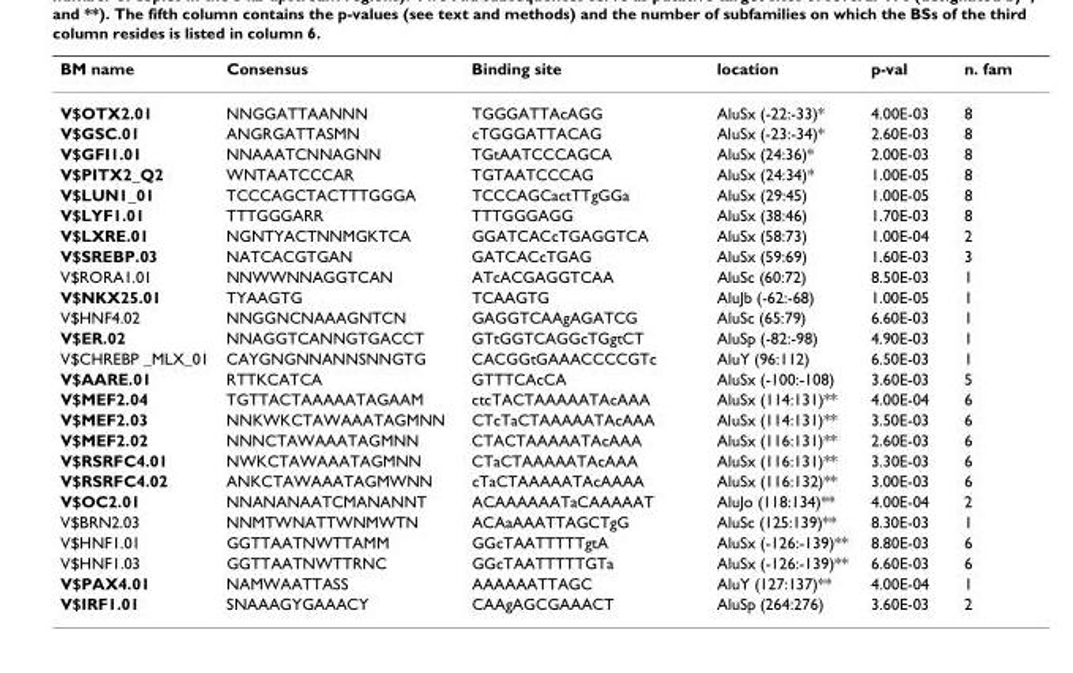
<table><thead><tr><td>BM name</td><td>Consensus</td><td>Binding site</td><td>location</td><td>p-val</td><td>n. fam</td></tr></thead><tbody><tr><td>V$OTX2.01</td><td>NNGGATTAANNN</td><td>TGGGATTAcAGG</td><td>AluSx (-22:-33)*</td><td>4.00E-03</td><td>8</td></tr><tr><td>V$GSC.01</td><td>ANGRGATTASMN</td><td>cTGGGATTACAG</td><td>AluSx (-23:-34)*</td><td>2.60E-03</td><td>8</td></tr><tr><td>V$GFI1.01</td><td>NNAAATCNNAGNN</td><td>TGtAATCCCAGCA</td><td>AluSx (24:36)*</td><td>2.00E-03</td><td>8</td></tr><tr><td>V$PITX2_Q2</td><td>WNTAATCCCAR</td><td>TGTAATCCCAG</td><td>AluSx (24:34)*</td><td>1.00E-05</td><td>8</td></tr><tr><td>V$LUN1_01</td><td>TCCCAGCTACTTTGGGA</td><td>TCCCAGCactTTgGGa</td><td>AluSx (29:45)</td><td>1.00E-05</td><td>8</td></tr><tr><td>V$LYF1.01</td><td>TTTGGGARR</td><td>TTTGGGAGG</td><td>AluSx (38:46)</td><td>1.70E-03</td><td>8</td></tr><tr><td>V$LXRE.01</td><td>NGNTYACTNNMGKTCA</td><td>GGATCACcTGAGGTCA</td><td>AluSx (58:73)</td><td>1.00E-04</td><td>2</td></tr><tr><td>V$SREBP.03</td><td>NATCACGTGAN</td><td>GATCACcTGAG</td><td>AluSx (59:69)</td><td>1.60E-03</td><td>3</td></tr><tr><td>V$RORA1.01</td><td>NNWWNNAGGTCAN</td><td>ATcACGAGGTCAA</td><td>AluSc (60:72)</td><td>8.50E-03</td><td>1</td></tr><tr><td>V$NKX25.01</td><td>TYAAGTG</td><td>TCAAGTG</td><td>AluJb (-62:-68)</td><td>1.00E-05</td><td>1</td></tr><tr><td>V$HNF4.02</td><td>NNGGNCNAAAGNTCN</td><td>GAGGTCAAgAGATCG</td><td>AluSc (65:79)</td><td>6.60E-03</td><td>1</td></tr><tr><td>V$ER.02</td><td>NNAGGTCANNGTGACCT</td><td>GTtGGTCAGGcTGgtCT</td><td>AluSp (-82:-98)</td><td>4.90E-03</td><td>1</td></tr><tr><td>V$CHREBP _MLX_01</td><td>CAYGNGNNANNSNNGTG</td><td>CACGGtGAAACCCCGTc</td><td>AluY (96:112)</td><td>6.50E-03</td><td>1</td></tr><tr><td>V$AARE.01</td><td>RTTKCATCA</td><td>GTTTCAcCA</td><td>AluSx (-100:-108)</td><td>3.60E-03</td><td>5</td></tr><tr><td>V$MEF2.04</td><td>TGTTACTAAAAATAGAAM</td><td>ctcTACTAAAAATAcAAA</td><td>AluSx (114:131)**</td><td>4.00E-04</td><td>6</td></tr><tr><td>V$MEF2.03</td><td>NNKWKCTAWAAATAGMNN</td><td>CTcTaCTAAAAATAcAAA</td><td>AluSx (114:131)**</td><td>3.50E-03</td><td>6</td></tr><tr><td>V$MEF2.02</td><td>NNNCTAWAAATAGMNN</td><td>CTACTAAAAATAcAAA</td><td>AluSx (116:131)**</td><td>2.60E-03</td><td>6</td></tr><tr><td>V$RSRFC4.01</td><td>NWKCTAWAAATAGMNN</td><td>CTaCTAAAAATAcAAA</td><td>AluSx (116:131)**</td><td>3.30E-03</td><td>6</td></tr><tr><td>V$RSRFC4.02</td><td>ANKCTAWAAATAGMWNN</td><td>cTaCTAAAAATAcAAAA</td><td>AluSx (116:132)**</td><td>3.00E-03</td><td>6</td></tr><tr><td>V$OC2.01</td><td>NNANANAATCMANANNT</td><td>ACAAAAAATaCAAAAAT</td><td>AluJo (118:134)**</td><td>4.00E-04</td><td>2</td></tr><tr><td>V$BRN2.03</td><td>NNMTWNATTWNMWTN</td><td>ACAaAAATTAGCTgG</td><td>AluSc (125:139)**</td><td>8.30E-03</td><td>1</td></tr><tr><td>V$HNF1.01</td><td>GGTTAATNWTTAMM</td><td>GGcTAATTTTTgtA</td><td>AluSx (-126:-139)**</td><td>8.80E-03</td><td>6</td></tr><tr><td>V$HNF1.03</td><td>GGTTAATNWTTRNC</td><td>GGcTAATTTTTGTa</td><td>AluSx (-126:-139)**</td><td>6.60E-03</td><td>6</td></tr><tr><td>V$PAX4.01</td><td>NAMWAATTASS</td><td>AAAAAATTAGC</td><td>AluY (127:137)**</td><td>4.00E-04</td><td>1</td></tr><tr><td>V$IRF1.01</td><td>SNAAAGYGAAACY</td><td>CAAgAGCGAAACT</td><td>AluSp (264:276)</td><td>3.60E-03</td><td>2</td></tr></tbody></table>